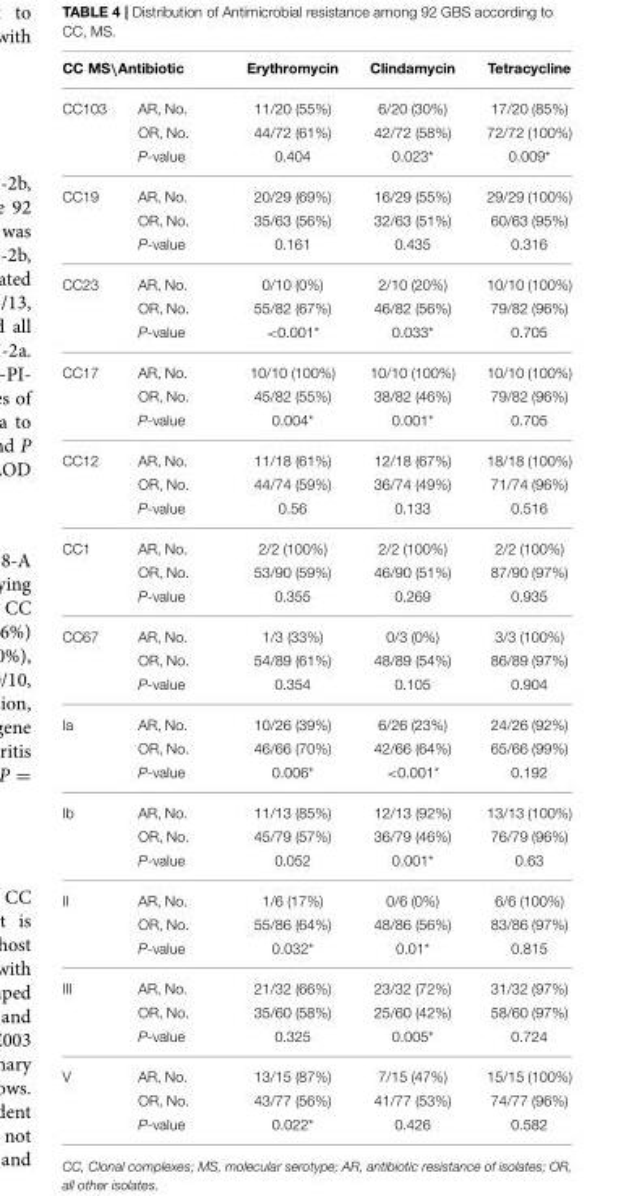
<table><thead><tr><td colspan="2">CC MS\Antibiotic</td><td rowspan="2">Erythromycin 11/20 (55%)</td><td rowspan="2">Clindamycin 6/20 (30%)</td><td rowspan="2">Tetracycline 17/20 (85%)</td></tr><tr><td>CC103</td><td>AR, No.</td></tr></thead><tbody><tr><td></td><td>OR, No.</td><td>44/72 (61%)</td><td>42/72 (58%)</td><td>72/72 (100%)</td></tr><tr><td></td><td>P-value</td><td>0.404</td><td>0.023*</td><td>0.009*</td></tr><tr><td rowspan="3">CC19</td><td>AR, No.</td><td>20/29 (69%)</td><td>16/29 (55%)</td><td>29/29 (100%)</td></tr><tr><td>OR, No.</td><td>35/63 (56%)</td><td>32/63 (51%)</td><td>60/63 (95%)</td></tr><tr><td>P-value</td><td>0.161</td><td>0.435</td><td>0.316</td></tr><tr><td rowspan="3">CC23</td><td>AR, No.</td><td>0/10 (0%)</td><td>2/10 (20%)</td><td>10/10 (100%)</td></tr><tr><td>OR, No.</td><td>55/82 (67%)</td><td>46/82 (56%)</td><td>79/82 (96%)</td></tr><tr><td>P-value</td><td>&lt;0.001*</td><td>0.033*</td><td>0.705</td></tr><tr><td rowspan="3">CC17</td><td>AR, No.</td><td>10/10 (100%)</td><td>10/10 (100%)</td><td>10/10 (100%)</td></tr><tr><td>OR, No.</td><td>45/82 (55%)</td><td>38/82 (46%)</td><td>79/82 (96%)</td></tr><tr><td>P-value</td><td>0.004*</td><td>0.001*</td><td>0.705</td></tr><tr><td rowspan="3">CC12</td><td>AR, No.</td><td>11/18 (61%)</td><td>12/18 (67%)</td><td>18/18 (100%)</td></tr><tr><td>OR, No.</td><td>44/74 (59%)</td><td>36/74 (49%)</td><td>71/74 (96%)</td></tr><tr><td>P-value</td><td>0.56</td><td>0.133</td><td>0.516</td></tr><tr><td rowspan="3">CC1</td><td>AR, No.</td><td>2/2 (100%)</td><td>2/2 (100%)</td><td>2/2 (100%)</td></tr><tr><td>OR, No.</td><td>53/90 (59%)</td><td>46/90 (51%)</td><td>87/90 (97%)</td></tr><tr><td>P-value</td><td>0.355</td><td>0.269</td><td>0.935</td></tr><tr><td rowspan="3">CC67</td><td>AR, No.</td><td>1/3 (33%)</td><td>0/3 (0%)</td><td>3/3 (100%)</td></tr><tr><td>OR, No.</td><td>54/89 (61%)</td><td>48/89 (54%)</td><td>86/89 (97%)</td></tr><tr><td>P-value</td><td>0.354</td><td>0.105</td><td>0.904</td></tr><tr><td rowspan="3">Ia</td><td>AR, No.</td><td>10/26 (39%)</td><td>6/26 (23%)</td><td>24/26 (92%)</td></tr><tr><td>OR, No.</td><td>46/66 (70%)</td><td>42/66 (64%)</td><td>65/66 (99%)</td></tr><tr><td>P-value</td><td>0.006*</td><td>&lt;0.001*</td><td>0.192</td></tr><tr><td rowspan="3">Ib</td><td>AR, No.</td><td>11/13 (85%)</td><td>12/13 (92%)</td><td>13/13 (100%)</td></tr><tr><td>OR, No.</td><td>45/79 (57%)</td><td>36/79 (46%)</td><td>76/79 (96%)</td></tr><tr><td>P-value</td><td>0.052</td><td>0.001*</td><td>0.63</td></tr><tr><td rowspan="3">II</td><td>AR, No.</td><td>1/6 (17%)</td><td>0/6 (0%)</td><td>6/6 (100%)</td></tr><tr><td>OR, No.</td><td>55/86 (64%)</td><td>48/86 (56%)</td><td>83/86 (97%)</td></tr><tr><td>P-value</td><td>0.032*</td><td>0.01*</td><td>0.815</td></tr><tr><td rowspan="3">III</td><td>AR, No.</td><td>21/32 (66%)</td><td>23/32 (72%)</td><td>31/32 (97%)</td></tr><tr><td>OR, No.</td><td>35/60 (58%)</td><td>25/60 (42%)</td><td>58/60 (97%)</td></tr><tr><td>P-value</td><td>0.325</td><td>0.005*</td><td>0.724</td></tr><tr><td rowspan="3">V</td><td>AR, No.</td><td>13/15 (87%)</td><td>7/15 (47%)</td><td>15/15 (100%)</td></tr><tr><td>OR, No.</td><td>43/77 (56%)</td><td>41/77 (53%)</td><td>74/77 (96%)</td></tr><tr><td>P-value</td><td>0.022*</td><td>0.426</td><td>0.582</td></tr></tbody></table>